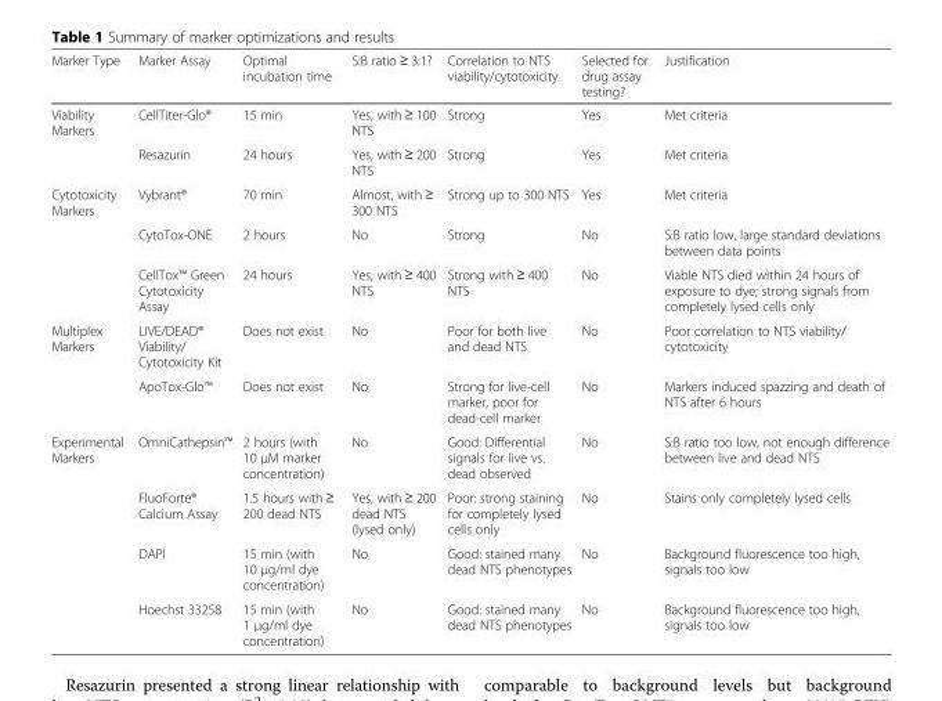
<table><thead><tr><td>Marker Type</td><td>Marker Assay</td><td>Optimal incubation time</td><td>S:B ratio ≥ 3:1?</td><td>Correlation to NTS viability/cytotoxicity</td><td>Selected for drug assay testing?</td><td>Justification</td></tr></thead><tbody><tr><td rowspan="2">Viability Markers</td><td>CellTiter-Glo®</td><td>15 min</td><td>Yes, with ≥ 100 NTS</td><td>Strong</td><td>Yes</td><td>Met criteria</td></tr><tr><td>Resazurin</td><td>24 hours</td><td>Yes, with ≥ 200 NTS</td><td>Strong</td><td>Yes</td><td>Met criteria</td></tr><tr><td rowspan="3">Cytotoxicity Markers</td><td>Vybrant®</td><td>70 min</td><td>Almost, with ≥ 300 NTS</td><td>Strong up to 300 NTS</td><td>Yes</td><td>Met criteria</td></tr><tr><td>CytoTox-ONE</td><td>2 hours</td><td>No</td><td>Strong</td><td>No</td><td>S:B ratio low, large standard deviations between data points</td></tr><tr><td>CellTox™ Green Cytotoxicity Assay</td><td>24 hours</td><td>Yes, with ≥ 400 NTS</td><td>Strong with ≥ 400 NTS</td><td>No</td><td>Viable NTS died within 24 hours of exposure to dye; strong signals from completely lysed cells only</td></tr><tr><td rowspan="2">Multiplex Markers</td><td>LIVE/DEAD® Viability/ Cytotoxicity Kit</td><td>Does not exist</td><td>No</td><td>Poor for both live and dead NTS</td><td>No</td><td>Poor correlation to NTS viability/ cytotoxicity</td></tr><tr><td>ApoTox-Glo™</td><td>Does not exist</td><td>No</td><td>Strong for live-cell marker, poor for dead-cell marker</td><td>No</td><td>Markers induced spazzing and death of NTS after 6 hours</td></tr><tr><td rowspan="4">Experimental Markers</td><td>OmniCathepsin™</td><td>2 hours (with 10 μM marker concentration)</td><td>No</td><td>Good: Differential signals for live vs. dead observed</td><td>No</td><td>S:B ratio too low, not enough difference between live and dead NTS</td></tr><tr><td>FluoForte® Calcium Assay</td><td>1.5 hours with ≥ 200 dead NTS</td><td>Yes, with ≥ 200 dead NTS (lysed only)</td><td>Poor: strong staining for completely lysed cells only</td><td>No</td><td>Stains only completely lysed cells</td></tr><tr><td>DAPI</td><td>15 min (with 10 μg/ml dye concentration)</td><td>No</td><td>Good: stained many dead NTS phenotypes</td><td>No</td><td>Background fluorescence too high, signals too low</td></tr><tr><td>Hoechst 33258</td><td>15 min (with 1 μg/ml dye concentration)</td><td>No</td><td>Good: stained many dead NTS phenotypes</td><td>No</td><td>Background fluorescence too high, signals too low</td></tr></tbody></table>